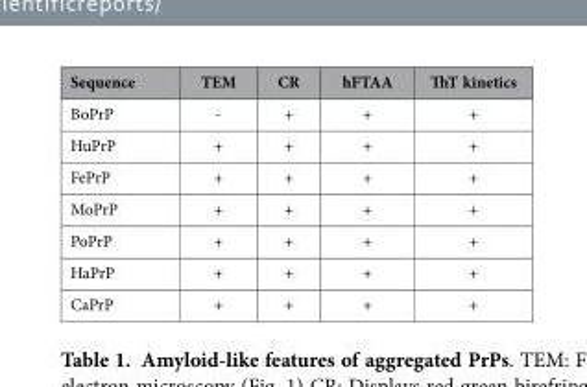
<table><thead><tr><td>Sequence</td><td>TEM</td><td>CR</td><td>hFTAA</td><td>ThT kinetics</td></tr></thead><tbody><tr><td>BoPrP</td><td>-</td><td>+</td><td>+</td><td>+</td></tr><tr><td>HuPrP</td><td>+</td><td>+</td><td>+</td><td>+</td></tr><tr><td>FePrP</td><td>+</td><td>+</td><td>+</td><td>+</td></tr><tr><td>MoPrP</td><td>+</td><td>+</td><td>+</td><td>+</td></tr><tr><td>PoPrP</td><td>+</td><td>+</td><td>+</td><td>+</td></tr><tr><td>HaPrP</td><td>+</td><td>+</td><td>+</td><td>+</td></tr><tr><td>CaPrP</td><td>+</td><td>+</td><td>+</td><td>+</td></tr></tbody></table>